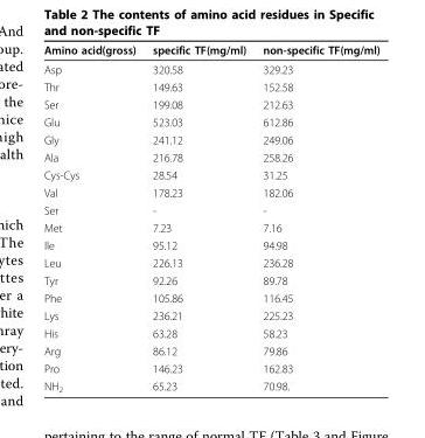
<table><thead><tr><td>Amino acid(gross)</td><td>specific TF(mg/ml)</td><td>non-specific TF(mg/ml)</td></tr></thead><tbody><tr><td>Asp</td><td>320.58</td><td>329.23</td></tr><tr><td>Thr</td><td>149.63</td><td>152.58</td></tr><tr><td>Ser</td><td>199.08</td><td>212.63</td></tr><tr><td>Glu</td><td>523.03</td><td>612.86</td></tr><tr><td>Gly</td><td>241.12</td><td>249.06</td></tr><tr><td>Ala</td><td>216.78</td><td>258.26</td></tr><tr><td>Cys-Cys</td><td>28.54</td><td>31.25</td></tr><tr><td>Val</td><td>178.23</td><td>182.06</td></tr><tr><td>Ser</td><td>-</td><td>-</td></tr><tr><td>Met</td><td>7.23</td><td>7.16</td></tr><tr><td>Ile</td><td>95.12</td><td>94.98</td></tr><tr><td>Leu</td><td>226.13</td><td>236.28</td></tr><tr><td>Tyr</td><td>92.26</td><td>89.78</td></tr><tr><td>Phe</td><td>105.86</td><td>116.45</td></tr><tr><td>Lys</td><td>236.21</td><td>225.23</td></tr><tr><td>His</td><td>63.28</td><td>58.23</td></tr><tr><td>Arg</td><td>86.12</td><td>79.86</td></tr><tr><td>Pro</td><td>146.23</td><td>162.83</td></tr><tr><td>NH<sub>2</sub></td><td>65.23</td><td>70.98.</td></tr></tbody></table>